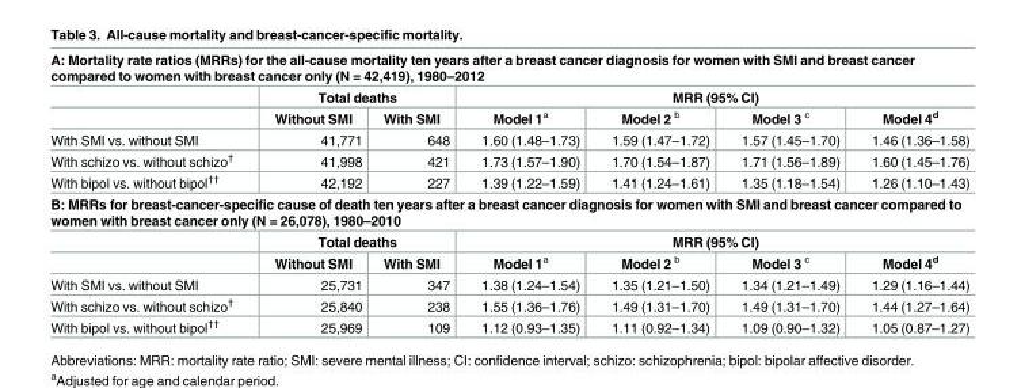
<table><tbody><tr><td colspan="7">A: Mortality rate ratios (MRRs) for the all-cause mortality ten years after a breast cancer diagnosis for women with SMI and breast cancer compared to women with breast cancer only (N = 42,419), 1980–2012</td></tr><tr><td></td><td colspan="2">Total deaths</td><td colspan="4">MRR (95% CI)</td></tr><tr><td></td><td>Without SMI</td><td>With SMI</td><td>Model 1<sup>a</sup></td><td>Model 2 <sup>b</sup></td><td>Model 3 <sup>c</sup></td><td>Model 4<sup>d</sup></td></tr><tr><td>With SMI vs. without SMI</td><td>41,771</td><td>648</td><td>1.60 (1.48–1.73)</td><td>1.59 (1.47–1.72)</td><td>1.57 (1.45–1.70)</td><td>1.46 (1.36–1.58)</td></tr><tr><td>With schizo vs. without schizo<sup>†</sup></td><td>41,998</td><td>421</td><td>1.73 (1.57–1.90)</td><td>1.70 (1.54–1.87)</td><td>1.71 (1.56–1.89)</td><td>1.60 (1.45–1.76)</td></tr><tr><td>With bipol vs. without bipol<sup>††</sup></td><td>42,192</td><td>227</td><td>1.39 (1.22–1.59)</td><td>1.41 (1.24–1.61)</td><td>1.35 (1.18–1.54)</td><td>1.26 (1.10–1.43)</td></tr><tr><td colspan="7">B: MRRs for breast-cancer-specific cause of death ten years after a breast cancer diagnosis for women with SMI and breast cancer compared to women with breast cancer only (N = 26,078), 1980–2010</td></tr><tr><td></td><td colspan="2">Total deaths</td><td colspan="4">MRR (95% CI)</td></tr><tr><td></td><td>Without SMI</td><td>With SMI</td><td>Model 1<sup>a</sup></td><td>Model 2 <sup>b</sup></td><td>Model 3 <sup>c</sup></td><td>Model 4<sup>d</sup></td></tr><tr><td>With SMI vs. without SMI</td><td>25,731</td><td>347</td><td>1.38 (1.24–1.54)</td><td>1.35 (1.21–1.50)</td><td>1.34 (1.21–1.49)</td><td>1.29 (1.16–1.44)</td></tr><tr><td>With schizo vs. without schizo<sup>†</sup></td><td>25,840</td><td>238</td><td>1.55 (1.36–1.76)</td><td>1.49 (1.31–1.70)</td><td>1.49 (1.31–1.70)</td><td>1.44 (1.27–1.64)</td></tr><tr><td>With bipol vs. without bipol<sup>††</sup></td><td>25,969</td><td>109</td><td>1.12 (0.93–1.35)</td><td>1.11 (0.92–1.34)</td><td>1.09 (0.90–1.32)</td><td>1.05 (0.87–1.27)</td></tr></tbody></table>